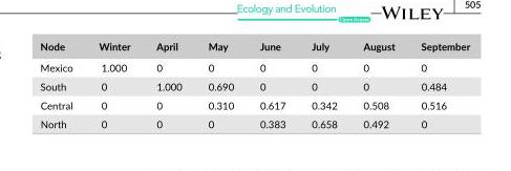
<table><thead><tr><td>Node</td><td>Winter</td><td>April</td><td>May</td><td>June</td><td>July</td><td>August</td><td>September</td></tr></thead><tbody><tr><td>Mexico</td><td>1.000</td><td>0</td><td>0</td><td>0</td><td>0</td><td>0</td><td>0</td></tr><tr><td>South</td><td>0</td><td>1.000</td><td>0.690</td><td>0</td><td>0</td><td>0</td><td>0.484</td></tr><tr><td>Central</td><td>0</td><td>0</td><td>0.310</td><td>0.617</td><td>0.342</td><td>0.508</td><td>0.516</td></tr><tr><td>North</td><td>0</td><td>0</td><td>0</td><td>0.383</td><td>0.658</td><td>0.492</td><td>0</td></tr></tbody></table>